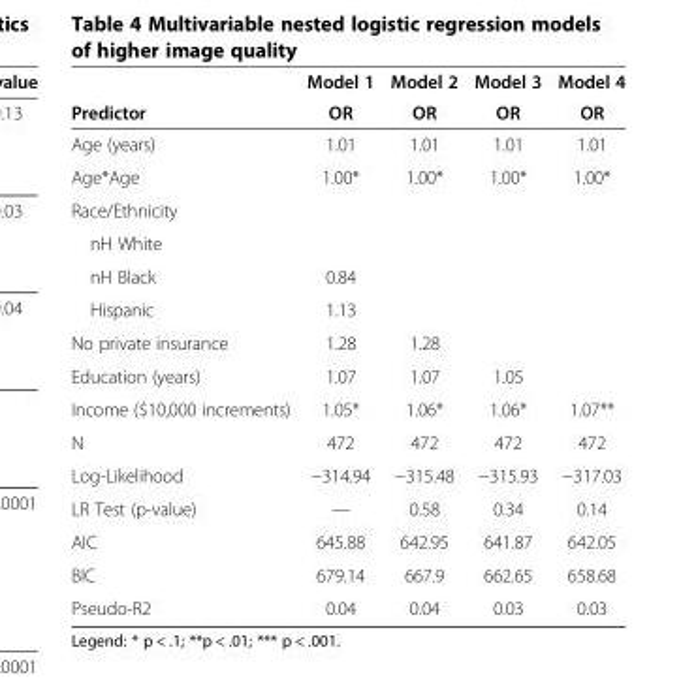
<table><thead><tr><td rowspan="2">Predictor</td><td rowspan="2">Model 1 OR</td><td rowspan="2">Model 2 OR</td><td rowspan="2">Model 3 OR</td><td rowspan="2">Model 4 OR</td></tr><tr></tr></thead><tbody><tr><td>Age (years)</td><td>1.01</td><td>1.01</td><td>1.01</td><td>1.01</td></tr><tr><td>Age*Age</td><td>1.00*</td><td>1.00*</td><td>1.00*</td><td>1.00*</td></tr><tr><td colspan="5">Race/Ethnicity</td></tr><tr><td colspan="5">nH White</td></tr><tr><td>nH Black</td><td>0.84</td><td></td><td></td><td></td></tr><tr><td>Hispanic</td><td>1.13</td><td></td><td></td><td></td></tr><tr><td>No private insurance</td><td>1.28</td><td>1.28</td><td></td><td></td></tr><tr><td>Education (years)</td><td>1.07</td><td>1.07</td><td>1.05</td><td></td></tr><tr><td>Income ($10,000 increments)</td><td>1.05*</td><td>1.06*</td><td>1.06*</td><td>1.07**</td></tr><tr><td>N</td><td>472</td><td>472</td><td>472</td><td>472</td></tr><tr><td>Log-Likelihood</td><td>−314.94</td><td>−315.48</td><td>−315.93</td><td>−317.03</td></tr><tr><td>LR Test (p-value)</td><td>—</td><td>0.58</td><td>0.34</td><td>0.14</td></tr><tr><td>AIC</td><td>645.88</td><td>642.95</td><td>641.87</td><td>642.05</td></tr><tr><td>BIC</td><td>679.14</td><td>667.9</td><td>662.65</td><td>658.68</td></tr><tr><td>Pseudo-R2</td><td>0.04</td><td>0.04</td><td>0.03</td><td>0.03</td></tr></tbody></table>